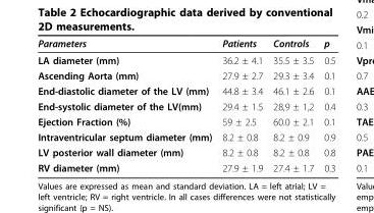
<table><thead><tr><td>Parameters</td><td>Patients</td><td>Controls</td><td>p</td></tr></thead><tbody><tr><td>LA diameter (mm)</td><td>36.2 ± 4.1</td><td>35.5 ± 3.5</td><td>0.5</td></tr><tr><td>Ascending Aorta (mm)</td><td>27.9 ± 2.7</td><td>29.3 ± 3.4</td><td>0.1</td></tr><tr><td>End-diastolic diameter of the LV (mm)</td><td>44.8 ± 3.4</td><td>46.1 ± 2.6</td><td>0.1</td></tr><tr><td>End-systolic diameter of the LV(mm)</td><td>29.4 ± 1.5</td><td>28,9 ± 1,2</td><td>0.4</td></tr><tr><td>Ejection Fraction (%)</td><td>59 ± 2.5</td><td>60.0 ± 2.1</td><td>0.1</td></tr><tr><td>Intraventricular septum diameter (mm)</td><td>8.2 ± 0.8</td><td>8.2 ± 0.9</td><td>0.9</td></tr><tr><td>LV posterior wall diameter (mm)</td><td>8.2 ± 0.8</td><td>8.2 ± 0.8</td><td>0.8</td></tr><tr><td>RV diameter (mm)</td><td>27.9 ± 1.9</td><td>27.4 ± 1.7</td><td>0.3</td></tr></tbody></table>